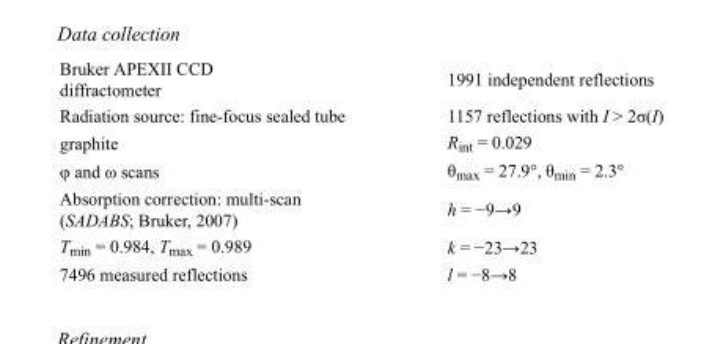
<table><tbody><tr><td>Bruker APEXII CCD diffractometer</td><td>1991 independent reflections</td></tr><tr><td>Radiation source: fine-focus sealed tube</td><td>1157 reflections with I &gt; 2σ(I)</td></tr><tr><td>graphite</td><td>R<sub>int</sub> = 0.029</td></tr><tr><td>φ and ω scans</td><td>θ<sub>max</sub> = 27.9°, θ<sub>min</sub> = 2.3°</td></tr><tr><td>Absorption correction: multi-scan (SADABS; Bruker, 2007)</td><td>h = −9→9</td></tr><tr><td>T<sub>min</sub> = 0.984, T<sub>max</sub> = 0.989</td><td>k = −23→23</td></tr><tr><td>7496 measured reflections</td><td>l = −8→8</td></tr></tbody></table>